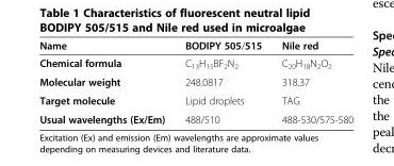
<table><thead><tr><td>Name</td><td>BODIPY 505/515</td><td>Nile red</td></tr></thead><tbody><tr><td>Chemical formula</td><td>C<sub>13</sub>H<sub>15</sub>BF<sub>2</sub>N<sub>2</sub></td><td>C<sub>20</sub>H<sub>18</sub>N<sub>2</sub>O<sub>2</sub></td></tr><tr><td>Molecular weight</td><td>248.0817</td><td>318.37</td></tr><tr><td>Target molecule</td><td>Lipid droplets</td><td>TAG</td></tr><tr><td>Usual wavelengths (Ex/Em)</td><td>488/510</td><td>488-530/575-580</td></tr></tbody></table>